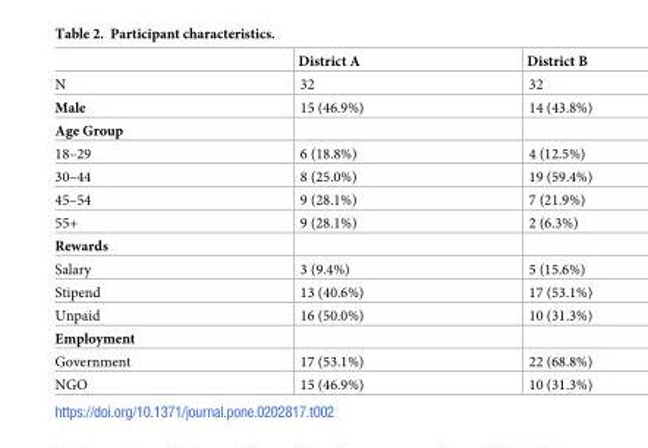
<table><thead><tr><td></td><td>District A</td><td>District B</td></tr></thead><tbody><tr><td>N</td><td>32</td><td>32</td></tr><tr><td>Male</td><td>15 (46.9%)</td><td>14 (43.8%)</td></tr><tr><td colspan="3">Age Group</td></tr><tr><td>18–29</td><td>6 (18.8%)</td><td>4 (12.5%)</td></tr><tr><td>30–44</td><td>8 (25.0%)</td><td>19 (59.4%)</td></tr><tr><td>45–54</td><td>9 (28.1%)</td><td>7 (21.9%)</td></tr><tr><td>55+</td><td>9 (28.1%)</td><td>2 (6.3%)</td></tr><tr><td colspan="3">Rewards</td></tr><tr><td>Salary</td><td>3 (9.4%)</td><td>5 (15.6%)</td></tr><tr><td>Stipend</td><td>13 (40.6%)</td><td>17 (53.1%)</td></tr><tr><td>Unpaid</td><td>16 (50.0%)</td><td>10 (31.3%)</td></tr><tr><td colspan="3">Employment</td></tr><tr><td>Government</td><td>17 (53.1%)</td><td>22 (68.8%)</td></tr><tr><td>NGO</td><td>15 (46.9%)</td><td>10 (31.3%)</td></tr></tbody></table>